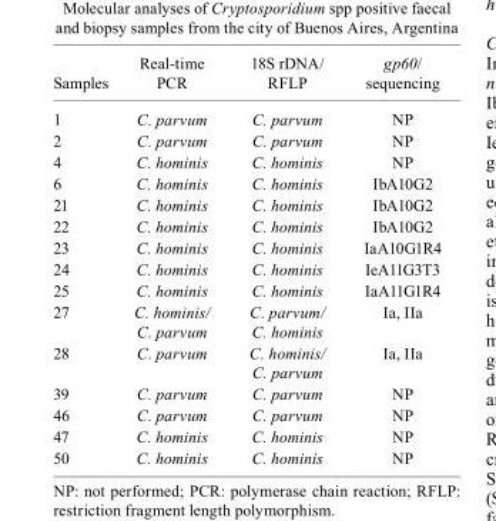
<table><thead><tr><td>Samples</td><td>Real-time PCR</td><td>18S rDNA/ RFLP</td><td>gp60/ sequencing</td></tr></thead><tbody><tr><td>1</td><td>C. parvum</td><td>C. parvum</td><td>NP</td></tr><tr><td>2</td><td>C. parvum</td><td>C. parvum</td><td>NP</td></tr><tr><td>4</td><td>C. hominis</td><td>C. hominis</td><td>NP</td></tr><tr><td>6</td><td>C. hominis</td><td>C. hominis</td><td>IbA10G2</td></tr><tr><td>21</td><td>C. hominis</td><td>C. hominis</td><td>IbA10G2</td></tr><tr><td>22</td><td>C. hominis</td><td>C. hominis</td><td>IbA10G2</td></tr><tr><td>23</td><td>C. hominis</td><td>C. hominis</td><td>IaA10G1R4</td></tr><tr><td>24</td><td>C. hominis</td><td>C. hominis</td><td>IeA11G3T3</td></tr><tr><td>25</td><td>C. hominis</td><td>C. hominis</td><td>IaA11G1R4</td></tr><tr><td>27</td><td>C. hominis/ C. parvum</td><td>C. parvum/ C. hominis</td><td>Ia, IIa</td></tr><tr><td>28</td><td>C. parvum</td><td>C. hominis/ C. parvum</td><td>Ia, IIa</td></tr><tr><td>39</td><td>C. parvum</td><td>C. parvum</td><td>NP</td></tr><tr><td>46</td><td>C. parvum</td><td>C. parvum</td><td>NP</td></tr><tr><td>47</td><td>C. hominis</td><td>C. hominis</td><td>NP</td></tr><tr><td>50</td><td>C. hominis</td><td>C. hominis</td><td>NP</td></tr></tbody></table>